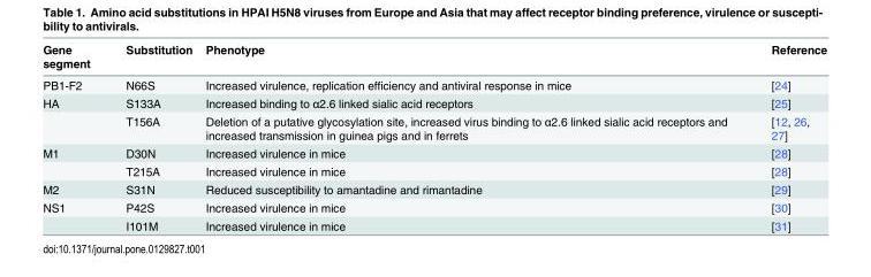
<table><thead><tr><td>Gene segment</td><td>Substitution</td><td>Phenotype</td><td>Reference</td></tr></thead><tbody><tr><td>PB1-F2</td><td>N66S</td><td>Increased virulence, replication efficiency and antiviral response in mice</td><td>[24]</td></tr><tr><td rowspan="2">HA</td><td>S133A</td><td>Increased binding to α2.6 linked sialic acid receptors</td><td>[25]</td></tr><tr><td>T156A</td><td>Deletion of a putative glycosylation site, increased virus binding to α2.6 linked sialic acid receptors and increased transmission in guinea pigs and in ferrets</td><td>[12, 26, 27]</td></tr><tr><td rowspan="2">M1</td><td>D30N</td><td>Increased virulence in mice</td><td>[28]</td></tr><tr><td>T215A</td><td>Increased virulence in mice</td><td>[28]</td></tr><tr><td>M2</td><td>S31N</td><td>Reduced susceptibility to amantadine and rimantadine</td><td>[29]</td></tr><tr><td rowspan="2">NS1</td><td>P42S</td><td>Increased virulence in mice</td><td>[30]</td></tr><tr><td>I101M</td><td>Increased virulence in mice</td><td>[31]</td></tr></tbody></table>